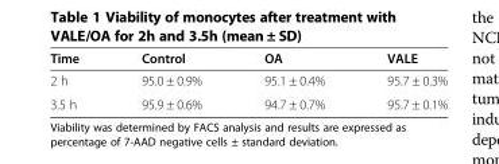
<table><thead><tr><td>Time</td><td>Control</td><td>OA</td><td>VALE</td></tr></thead><tbody><tr><td>2 h</td><td>95.0 ± 0.9%</td><td>95.1 ± 0.4%</td><td>95.7 ± 0.3%</td></tr><tr><td>3.5 h</td><td>95.9 ± 0.6%</td><td>94.7 ± 0.7%</td><td>95.7 ± 0.1%</td></tr></tbody></table>